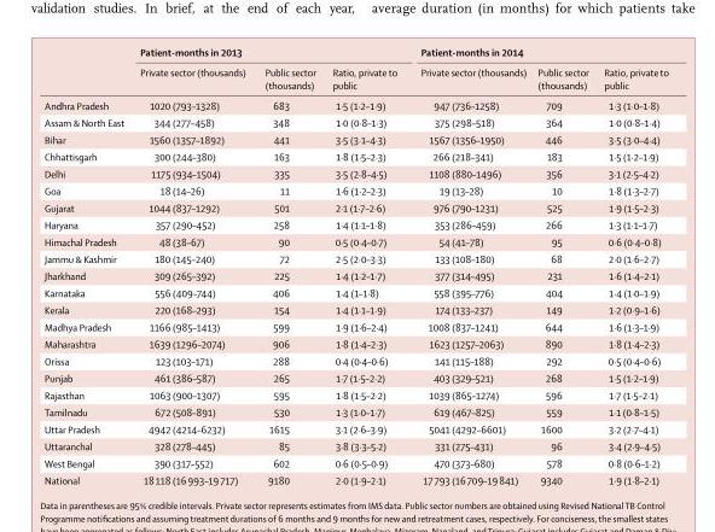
<table><thead><tr><td rowspan="2"></td><td colspan="3">Patient-months in 2013</td><td colspan="3">Patient-months in 2014</td></tr><tr><td>Private sector (thousands)</td><td>Public sector (thousands)</td><td>Ratio, private to public</td><td>Private sector (thousands)</td><td>Public sector (thousands)</td><td>Ratio, private to public</td></tr></thead><tbody><tr><td>Andhra Pradesh</td><td>1020 (793–1328)</td><td>683</td><td>1·5 (1·2–1·9)</td><td>947 (736–1258)</td><td>709</td><td>1·3 (1·0–1·8)</td></tr><tr><td>Assam &amp; North East</td><td>344 (277–458)</td><td>348</td><td>1·0 (0·8–1·3)</td><td>375 (298–518)</td><td>364</td><td>1·0 (0·8–1·4)</td></tr><tr><td>Bihar</td><td>1560 (1357–1892)</td><td>441</td><td>3·5 (3·1–4·3)</td><td>1567 (1356–1950)</td><td>446</td><td>3·5 (3·0–4·4)</td></tr><tr><td>Chhattisgarh</td><td>300 (244–380)</td><td>163</td><td>1·8 (1·5–2·3)</td><td>266 (218–341)</td><td>183</td><td>1·5 (1·2–1·9)</td></tr><tr><td>Delhi</td><td>1175 (934–1504)</td><td>335</td><td>3·5 (2·8–4·5)</td><td>1108 (880–1496)</td><td>356</td><td>3·1 (2·5–4·2)</td></tr><tr><td>Goa</td><td>18 (14–26)</td><td>11</td><td>1·6 (1·2–2·3)</td><td>19 (13–28)</td><td>10</td><td>1·8 (1·3–2·7)</td></tr><tr><td>Gujarat</td><td>1044 (837–1292)</td><td>501</td><td>2·1 (1·7–2·6)</td><td>976 (790–1231)</td><td>525</td><td>1·9 (1·5–2·3)</td></tr><tr><td>Haryana</td><td>357 (290–452)</td><td>258</td><td>1·4 (1·1–1·8)</td><td>353 (286–459)</td><td>266</td><td>1·3 (1·1–1·7)</td></tr><tr><td>Himachal Pradesh</td><td>48 (38–67)</td><td>90</td><td>0·5 (0·4–0·7)</td><td>54 (41–78)</td><td>95</td><td>0·6 (0·4–0·8)</td></tr><tr><td>Jammu &amp; Kashmir</td><td>180 (145–240)</td><td>72</td><td>2·5 (2·0–3·3)</td><td>133 (108–180)</td><td>68</td><td>2·0 (1·6–2·7)</td></tr><tr><td>Jharkhand</td><td>309 (265–392)</td><td>225</td><td>1·4 (1·2–1·7)</td><td>377 (314–495)</td><td>231</td><td>1·6 (1·4–2·1)</td></tr><tr><td>Karnataka</td><td>556 (409–744)</td><td>406</td><td>1·4 (1–1·8)</td><td>558 (395–776)</td><td>404</td><td>1·4 (1·0–1·9)</td></tr><tr><td>Kerala</td><td>220 (168–293)</td><td>154</td><td>1·4 (1·1–1·9)</td><td>174 (133–237)</td><td>149</td><td>1·2 (0·9–1·6)</td></tr><tr><td>Madhya Pradesh</td><td>1166 (985–1413)</td><td>599</td><td>1·9 (1·6–2·4)</td><td>1008 (837–1241)</td><td>644</td><td>1·6 (1·3–1·9)</td></tr><tr><td>Maharashtra</td><td>1639 (1296–2074)</td><td>906</td><td>1·8 (1·4–2·3)</td><td>1623 (1257–2063)</td><td>890</td><td>1·8 (1·4–2·3)</td></tr><tr><td>Orissa</td><td>123 (103–171)</td><td>288</td><td>0·4 (0·4–0·6)</td><td>141 (115–188)</td><td>292</td><td>0·5 (0·4–0·6)</td></tr><tr><td>Punjab</td><td>461 (386–587)</td><td>265</td><td>1·7 (1·5–2·2)</td><td>403 (329–521)</td><td>268</td><td>1·5 (1·2–1·9)</td></tr><tr><td>Rajasthan</td><td>1063 (900–1307)</td><td>595</td><td>1·8 (1·5–2·2)</td><td>1039 (865–1274)</td><td>596</td><td>1·7 (1·5–2·1)</td></tr><tr><td>Tamilnadu</td><td>672 (508–891)</td><td>530</td><td>1·3 (1·0–1·7)</td><td>619 (467–825)</td><td>559</td><td>1·1 (0·8–1·5)</td></tr><tr><td>Uttar Pradesh</td><td>4942 (4214–6232)</td><td>1615</td><td>3·1 (2·6–3·9)</td><td>5041 (4292–6601)</td><td>1600</td><td>3·2 (2·7–4·1)</td></tr><tr><td>Uttaranchal</td><td>328 (278–445)</td><td>85</td><td>3·8 (3·3–5·2)</td><td>331 (275–431)</td><td>96</td><td>3·4 (2·9–4·5)</td></tr><tr><td>West Bengal</td><td>390 (317–552)</td><td>602</td><td>0·6 (0·5–0·9)</td><td>470 (373–680)</td><td>578</td><td>0·8 (0·6–1·2)</td></tr><tr><td>National</td><td>18 118 (16 993–19 717)</td><td>9180</td><td>2·0 (1·9–2·1)</td><td>17 793 (16 709–19 841)</td><td>9340</td><td>1·9 (1·8–2·1)</td></tr></tbody></table>